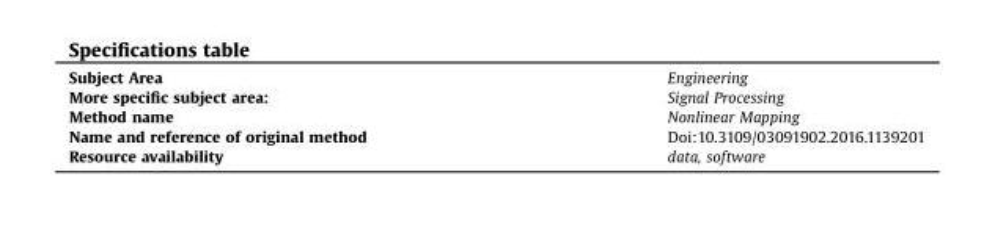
<table><tbody><tr><td>Subject Area</td><td>Engineering</td></tr><tr><td>More specific subject area:</td><td>Signal Processing</td></tr><tr><td>Method name</td><td>Nonlinear Mapping</td></tr><tr><td>Name and reference of original method</td><td>Doi:10.3109/03091902.2016.1139201</td></tr><tr><td>Resource availability</td><td>data, software</td></tr></tbody></table>